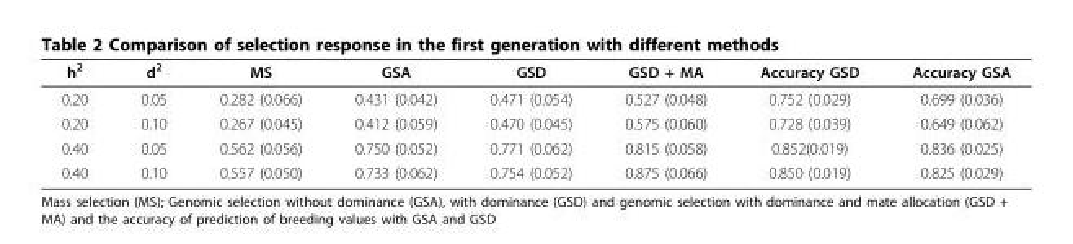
<table><thead><tr><td>h<sup>2</sup></td><td>d<sup>2</sup></td><td>MS</td><td>GSA</td><td>GSD</td><td>GSD + MA</td><td>Accuracy GSD</td><td>Accuracy GSA</td></tr></thead><tbody><tr><td>0.20</td><td>0.05</td><td>0.282 (0.066)</td><td>0.431 (0.042)</td><td>0.471 (0.054)</td><td>0.527 (0.048)</td><td>0.752 (0.029)</td><td>0.699 (0.036)</td></tr><tr><td>0.20</td><td>0.10</td><td>0.267 (0.045)</td><td>0.412 (0.059)</td><td>0.470 (0.045)</td><td>0.575 (0.060)</td><td>0.728 (0.039)</td><td>0.649 (0.062)</td></tr><tr><td>0.40</td><td>0.05</td><td>0.562 (0.056)</td><td>0.750 (0.052)</td><td>0.771 (0.062)</td><td>0.815 (0.058)</td><td>0.852(0.019)</td><td>0.836 (0.025)</td></tr><tr><td>0.40</td><td>0.10</td><td>0.557 (0.050)</td><td>0.733 (0.062)</td><td>0.754 (0.052)</td><td>0.875 (0.066)</td><td>0.850 (0.019)</td><td>0.825 (0.029)</td></tr></tbody></table>